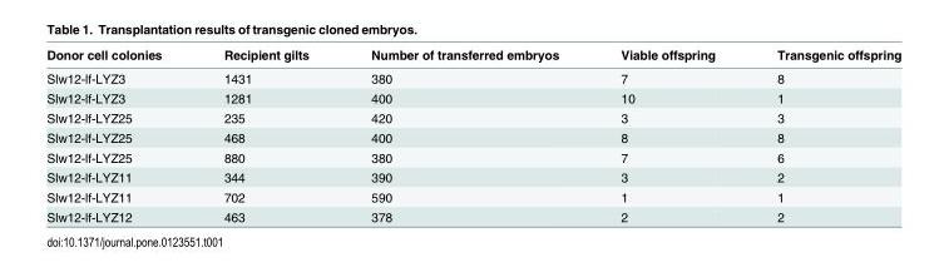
<table><thead><tr><td>Donor cell colonies</td><td>Recipient gilts</td><td>Number of transferred embryos</td><td>Viable offspring</td><td>Transgenic offspring</td></tr></thead><tbody><tr><td>Slw12-lf-LYZ3</td><td>1431</td><td>380</td><td>7</td><td>8</td></tr><tr><td>Slw12-lf-LYZ3</td><td>1281</td><td>400</td><td>10</td><td>1</td></tr><tr><td>Slw12-lf-LYZ25</td><td>235</td><td>420</td><td>3</td><td>3</td></tr><tr><td>Slw12-lf-LYZ25</td><td>468</td><td>400</td><td>8</td><td>8</td></tr><tr><td>Slw12-lf-LYZ25</td><td>880</td><td>380</td><td>7</td><td>6</td></tr><tr><td>Slw12-lf-LYZ11</td><td>344</td><td>390</td><td>3</td><td>2</td></tr><tr><td>Slw12-lf-LYZ11</td><td>702</td><td>590</td><td>1</td><td>1</td></tr><tr><td>Slw12-lf-LYZ12</td><td>463</td><td>378</td><td>2</td><td>2</td></tr></tbody></table>